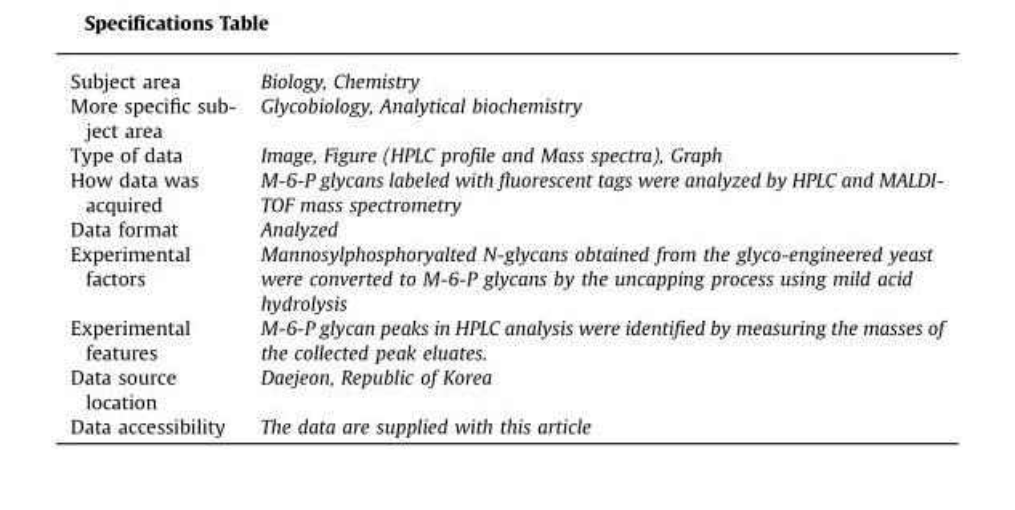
<table><tbody><tr><td>Subject area</td><td>Biology, Chemistry</td></tr><tr><td>More specific sub- ject area</td><td>Glycobiology, Analytical biochemistry</td></tr><tr><td>Type of data</td><td>Image, Figure (HPLC profile and Mass spectra), Graph</td></tr><tr><td>How data was acquired</td><td>M-6-P glycans labeled with fluorescent tags were analyzed by HPLC and MALDI- TOF mass spectrometry</td></tr><tr><td>Data format</td><td>Analyzed</td></tr><tr><td>Experimental factors</td><td>Mannosylphosphoryalted N-glycans obtained from the glyco-engineered yeast were converted to M-6-P glycans by the uncapping process using mild acid hydrolysis</td></tr><tr><td>Experimental features</td><td>M-6-P glycan peaks in HPLC analysis were identified by measuring the masses of the collected peak eluates.</td></tr><tr><td>Data source location</td><td>Daejeon, Republic of Korea</td></tr><tr><td>Data accessibility</td><td>The data are supplied with this article</td></tr></tbody></table>